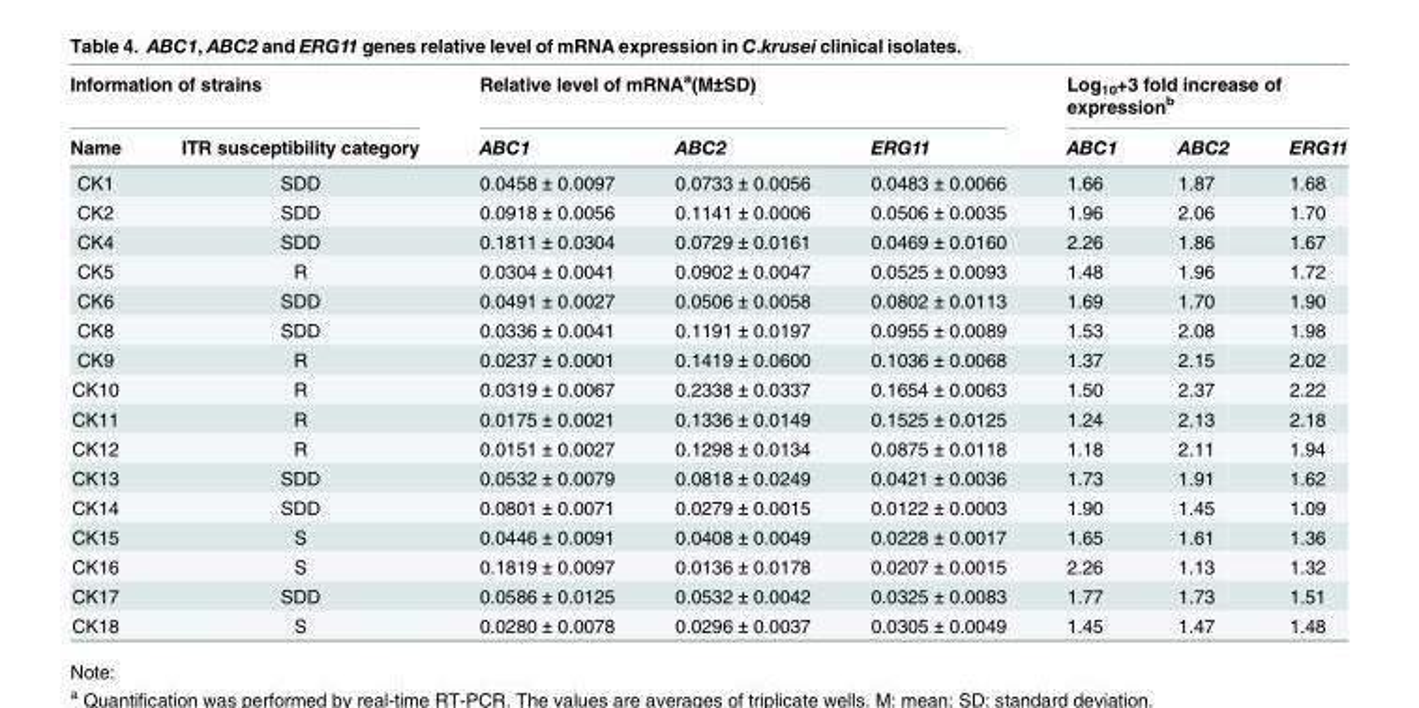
<table><thead><tr><td colspan="2">Information of strains</td><td colspan="3">Relative level of mRNA<sup>a</sup>(M±SD)</td><td colspan="3">Log<sub>10</sub>+3 fold increase of expression<sup>b</sup></td></tr><tr><td>Name</td><td>ITR susceptibility category</td><td>ABC1</td><td>ABC2</td><td>ERG11</td><td>ABC1</td><td>ABC2</td><td>ERG11</td></tr></thead><tbody><tr><td>CK1</td><td>SDD</td><td>0.0458 ± 0.0097</td><td>0.0733 ± 0.0056</td><td>0.0483 ± 0.0066</td><td>1.66</td><td>1.87</td><td>1.68</td></tr><tr><td>CK2</td><td>SDD</td><td>0.0918 ± 0.0056</td><td>0.1141 ± 0.0006</td><td>0.0506 ± 0.0035</td><td>1.96</td><td>2.06</td><td>1.70</td></tr><tr><td>CK4</td><td>SDD</td><td>0.1811 ± 0.0304</td><td>0.0729 ± 0.0161</td><td>0.0469 ± 0.0160</td><td>2.26</td><td>1.86</td><td>1.67</td></tr><tr><td>CK5</td><td>R</td><td>0.0304 ± 0.0041</td><td>0.0902 ± 0.0047</td><td>0.0525 ± 0.0093</td><td>1.48</td><td>1.96</td><td>1.72</td></tr><tr><td>CK6</td><td>SDD</td><td>0.0491 ± 0.0027</td><td>0.0506 ± 0.0058</td><td>0.0802 ± 0.0113</td><td>1.69</td><td>1.70</td><td>1.90</td></tr><tr><td>CK8</td><td>SDD</td><td>0.0336 ± 0.0041</td><td>0.1191 ± 0.0197</td><td>0.0955 ± 0.0089</td><td>1.53</td><td>2.08</td><td>1.98</td></tr><tr><td>CK9</td><td>R</td><td>0.0237 ± 0.0001</td><td>0.1419 ± 0.0600</td><td>0.1036 ± 0.0068</td><td>1.37</td><td>2.15</td><td>2.02</td></tr><tr><td>CK10</td><td>R</td><td>0.0319 ± 0.0067</td><td>0.2338 ± 0.0337</td><td>0.1654 ± 0.0063</td><td>1.50</td><td>2.37</td><td>2.22</td></tr><tr><td>CK11</td><td>R</td><td>0.0175 ± 0.0021</td><td>0.1336 ± 0.0149</td><td>0.1525 ± 0.0125</td><td>1.24</td><td>2.13</td><td>2.18</td></tr><tr><td>CK12</td><td>R</td><td>0.0151 ± 0.0027</td><td>0.1298 ± 0.0134</td><td>0.0875 ± 0.0118</td><td>1.18</td><td>2.11</td><td>1.94</td></tr><tr><td>CK13</td><td>SDD</td><td>0.0532 ± 0.0079</td><td>0.0818 ± 0.0249</td><td>0.0421 ± 0.0036</td><td>1.73</td><td>1.91</td><td>1.62</td></tr><tr><td>CK14</td><td>SDD</td><td>0.0801 ± 0.0071</td><td>0.0279 ± 0.0015</td><td>0.0122 ± 0.0003</td><td>1.90</td><td>1.45</td><td>1.09</td></tr><tr><td>CK15</td><td>S</td><td>0.0446 ± 0.0091</td><td>0.0408 ± 0.0049</td><td>0.0228 ± 0.0017</td><td>1.65</td><td>1.61</td><td>1.36</td></tr><tr><td>CK16</td><td>S</td><td>0.1819 ± 0.0097</td><td>0.0136 ± 0.0178</td><td>0.0207 ± 0.0015</td><td>2.26</td><td>1.13</td><td>1.32</td></tr><tr><td>CK17</td><td>SDD</td><td>0.0586 ± 0.0125</td><td>0.0532 ± 0.0042</td><td>0.0325 ± 0.0083</td><td>1.77</td><td>1.73</td><td>1.51</td></tr><tr><td>CK18</td><td>S</td><td>0.0280 ± 0.0078</td><td>0.0296 ± 0.0037</td><td>0.0305 ± 0.0049</td><td>1.45</td><td>1.47</td><td>1.48</td></tr></tbody></table>